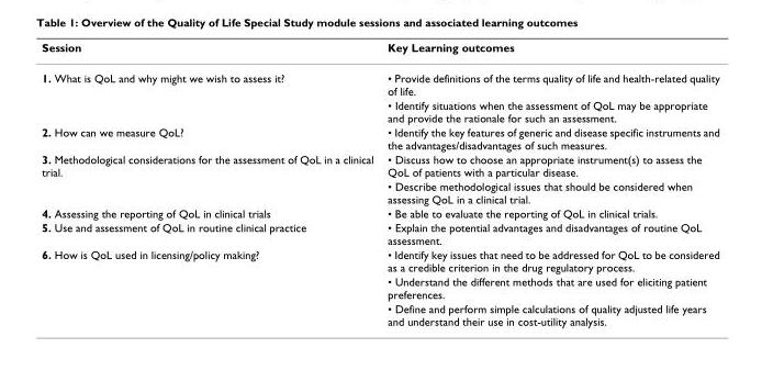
<table><thead><tr><td>Session</td><td>Key Learning outcomes</td></tr></thead><tbody><tr><td rowspan="2">1. What is QoL and why might we wish to assess it?</td><td>• Provide definitions of the terms quality of life and health-related quality of life.</td></tr><tr><td>• Identify situations when the assessment of QoL may be appropriate and provide the rationale for such an assessment.</td></tr><tr><td>2. How can we measure QoL?</td><td>• Identify the key features of generic and disease specific instruments and the advantages/disadvantages of such measures.</td></tr><tr><td rowspan="2">3. Methodological considerations for the assessment of QoL in a clinical trial.</td><td>• Discuss how to choose an appropriate instrument(s) to assess the QoL of patients with a particular disease.</td></tr><tr><td>• Describe methodological issues that should be considered when assessing QoL in a clinical trial.</td></tr><tr><td>4. Assessing the reporting of QoL in clinical trials</td><td>• Be able to evaluate the reporting of QoL in clinical trials.</td></tr><tr><td>5. Use and assessment of QoL in routine clinical practice</td><td>• Explain the potential advantages and disadvantages of routine QoL assessment.</td></tr><tr><td rowspan="3">6. How is QoL used in licensing/policy making?</td><td>• Identify key issues that need to be addressed for QoL to be considered as a credible criterion in the drug regulatory process.</td></tr><tr><td>• Understand the different methods that are used for eliciting patient preferences.</td></tr><tr><td>• Define and perform simple calculations of quality adjusted life years and understand their use in cost-utility analysis.</td></tr></tbody></table>